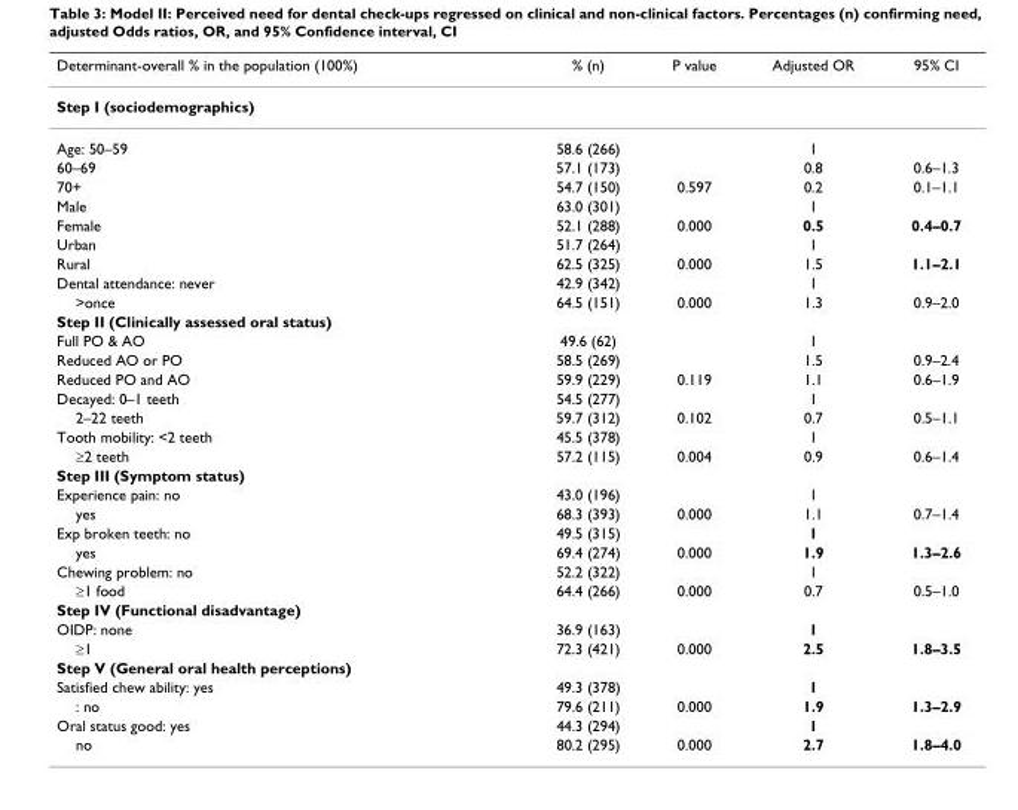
<table><thead><tr><td>Determinant-overall % in the population (100%)</td><td>% (n)</td><td>P value</td><td>Adjusted OR</td><td>95% CI</td></tr></thead><tbody><tr><td colspan="5">Step I (sociodemographics)</td></tr><tr><td>Age: 50–59</td><td>58.6 (266)</td><td></td><td>1</td><td></td></tr><tr><td>60–69</td><td>57.1 (173)</td><td></td><td>0.8</td><td>0.6–1.3</td></tr><tr><td>70+</td><td>54.7 (150)</td><td>0.597</td><td>0.2</td><td>0.1–1.1</td></tr><tr><td>Male</td><td>63.0 (301)</td><td></td><td>1</td><td></td></tr><tr><td>Female</td><td>52.1 (288)</td><td>0.000</td><td>0.5</td><td>0.4–0.7</td></tr><tr><td>Urban</td><td>51.7 (264)</td><td></td><td>1</td><td></td></tr><tr><td>Rural</td><td>62.5 (325)</td><td>0.000</td><td>1.5</td><td>1.1–2.1</td></tr><tr><td>Dental attendance: never</td><td>42.9 (342)</td><td></td><td>1</td><td></td></tr><tr><td>&gt;once</td><td>64.5 (151)</td><td>0.000</td><td>1.3</td><td>0.9–2.0</td></tr><tr><td colspan="5">Step II (Clinically assessed oral status)</td></tr><tr><td>Full PO &amp; AO</td><td>49.6 (62)</td><td></td><td>1</td><td></td></tr><tr><td>Reduced AO or PO</td><td>58.5 (269)</td><td></td><td>1.5</td><td>0.9–2.4</td></tr><tr><td>Reduced PO and AO</td><td>59.9 (229)</td><td>0.119</td><td>1.1</td><td>0.6–1.9</td></tr><tr><td>Decayed: 0–1 teeth</td><td>54.5 (277)</td><td></td><td>1</td><td></td></tr><tr><td>2–22 teeth</td><td>59.7 (312)</td><td>0.102</td><td>0.7</td><td>0.5–1.1</td></tr><tr><td>Tooth mobility: &lt;2 teeth</td><td>45.5 (378)</td><td></td><td>1</td><td></td></tr><tr><td>≥2 teeth</td><td>57.2 (115)</td><td>0.004</td><td>0.9</td><td>0.6–1.4</td></tr><tr><td colspan="5">Step III (Symptom status)</td></tr><tr><td>Experience pain: no</td><td>43.0 (196)</td><td></td><td>1</td><td></td></tr><tr><td>yes</td><td>68.3 (393)</td><td>0.000</td><td>1.1</td><td>0.7–1.4</td></tr><tr><td>Exp broken teeth: no</td><td>49.5 (315)</td><td></td><td>1</td><td></td></tr><tr><td>yes</td><td>69.4 (274)</td><td>0.000</td><td>1.9</td><td>1.3–2.6</td></tr><tr><td>Chewing problem: no</td><td>52.2 (322)</td><td></td><td>1</td><td></td></tr><tr><td>≥1 food</td><td>64.4 (266)</td><td>0.000</td><td>0.7</td><td>0.5–1.0</td></tr><tr><td colspan="5">Step IV (Functional disadvantage)</td></tr><tr><td>OIDP: none</td><td>36.9 (163)</td><td></td><td>1</td><td></td></tr><tr><td>≥1</td><td>72.3 (421)</td><td>0.000</td><td>2.5</td><td>1.8–3.5</td></tr><tr><td colspan="5">Step V (General oral health perceptions)</td></tr><tr><td>Satisfied chew ability: yes</td><td>49.3 (378)</td><td></td><td>1</td><td></td></tr><tr><td>: no</td><td>79.6 (211)</td><td>0.000</td><td>1.9</td><td>1.3–2.9</td></tr><tr><td>Oral status good: yes</td><td>44.3 (294)</td><td></td><td>1</td><td></td></tr><tr><td>no</td><td>80.2 (295)</td><td>0.000</td><td>2.7</td><td>1.8–4.0</td></tr></tbody></table>